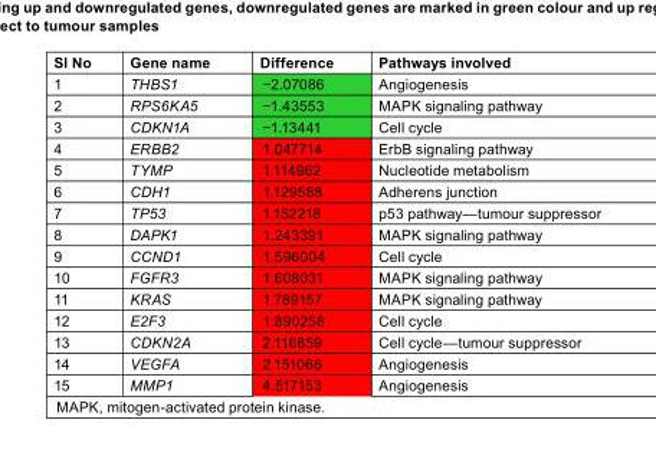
<table><thead><tr><td>Sl No</td><td>Gene name</td><td>Difference</td><td>Pathways involved</td></tr></thead><tbody><tr><td>1</td><td>THBS1</td><td>−2.07086</td><td>Angiogenesis</td></tr><tr><td>2</td><td>RPS6KA5</td><td>−1.43553</td><td>MAPK signaling pathway</td></tr><tr><td>3</td><td>CDKN1A</td><td>−1.13441</td><td>Cell cycle</td></tr><tr><td>4</td><td>ERBB2</td><td>1.047714</td><td>ErbB signaling pathway</td></tr><tr><td>5</td><td>TYMP</td><td>1.114962</td><td>Nucleotide metabolism</td></tr><tr><td>6</td><td>CDH1</td><td>1.129588</td><td>Adherens junction</td></tr><tr><td>7</td><td>TP53</td><td>1.152218</td><td>p53 pathway—tumour suppressor</td></tr><tr><td>8</td><td>DAPK1</td><td>1.243391</td><td>MAPK signaling pathway</td></tr><tr><td>9</td><td>CCND1</td><td>1.596004</td><td>Cell cycle</td></tr><tr><td>10</td><td>FGFR3</td><td>1.608031</td><td>MAPK signaling pathway</td></tr><tr><td>11</td><td>KRAS</td><td>1.789157</td><td>MAPK signaling pathway</td></tr><tr><td>12</td><td>E2F3</td><td>1.890258</td><td>Cell cycle</td></tr><tr><td>13</td><td>CDKN2A</td><td>2.116859</td><td>Cell cycle—tumour suppressor</td></tr><tr><td>14</td><td>VEGFA</td><td>2.151066</td><td>Angiogenesis</td></tr><tr><td>15</td><td>MMP1</td><td>4.517153</td><td>Angiogenesis</td></tr></tbody></table>